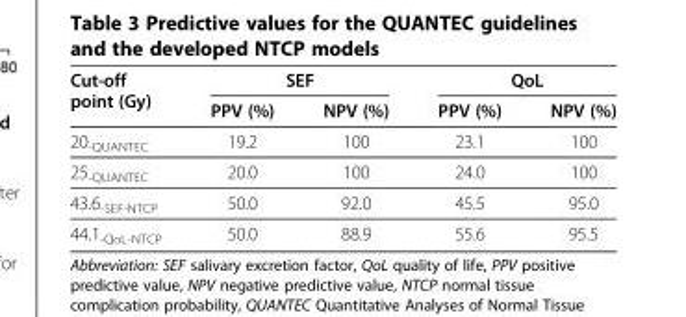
<table><thead><tr><td rowspan="2">Cut-off point (Gy)</td><td colspan="2">SEF</td><td colspan="2">QoL</td></tr><tr><td>PPV (%)</td><td>NPV (%)</td><td>PPV (%)</td><td>NPV (%)</td></tr></thead><tbody><tr><td>20<sub>-QUANTEC</sub></td><td>19.2</td><td>100</td><td>23.1</td><td>100</td></tr><tr><td>25<sub>-QUANTEC</sub></td><td>20.0</td><td>100</td><td>24.0</td><td>100</td></tr><tr><td>43.6<sub>-SEF-NTCP</sub></td><td>50.0</td><td>92.0</td><td>45.5</td><td>95.0</td></tr><tr><td>44.1<sub>-QoL-NTCP</sub></td><td>50.0</td><td>88.9</td><td>55.6</td><td>95.5</td></tr></tbody></table>